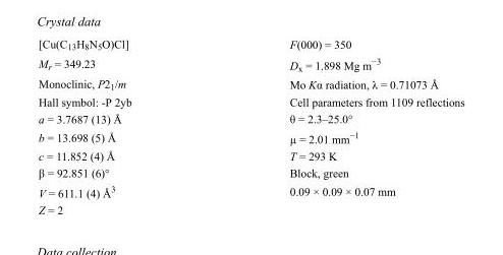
<table><tbody><tr><td>[Cu(C<sub>13</sub>H<sub>8</sub>N<sub>5</sub>O)Cl]</td><td>F(000) = 350</td></tr><tr><td>M<sub>r</sub> = 349.23</td><td>D<sub>x</sub> = 1.898 Mg m<sup>−3</sup></td></tr><tr><td>Monoclinic, P2<sub>1</sub>/m</td><td>Mo Kα radiation, λ = 0.71073 Å</td></tr><tr><td>Hall symbol: -P 2yb</td><td>Cell parameters from 1109 reflections</td></tr><tr><td>a = 3.7687 (13) Å</td><td>θ = 2.3–25.0°</td></tr><tr><td>b = 13.698 (5) Å</td><td>µ = 2.01 mm<sup>−1</sup></td></tr><tr><td>c = 11.852 (4) Å</td><td>T = 293 K</td></tr><tr><td>β = 92.851 (6)°</td><td>Block, green</td></tr><tr><td>V = 611.1 (4) Å<sup>3</sup></td><td>0.09 × 0.09 × 0.07 mm</td></tr><tr><td>Z = 2</td><td></td></tr></tbody></table>